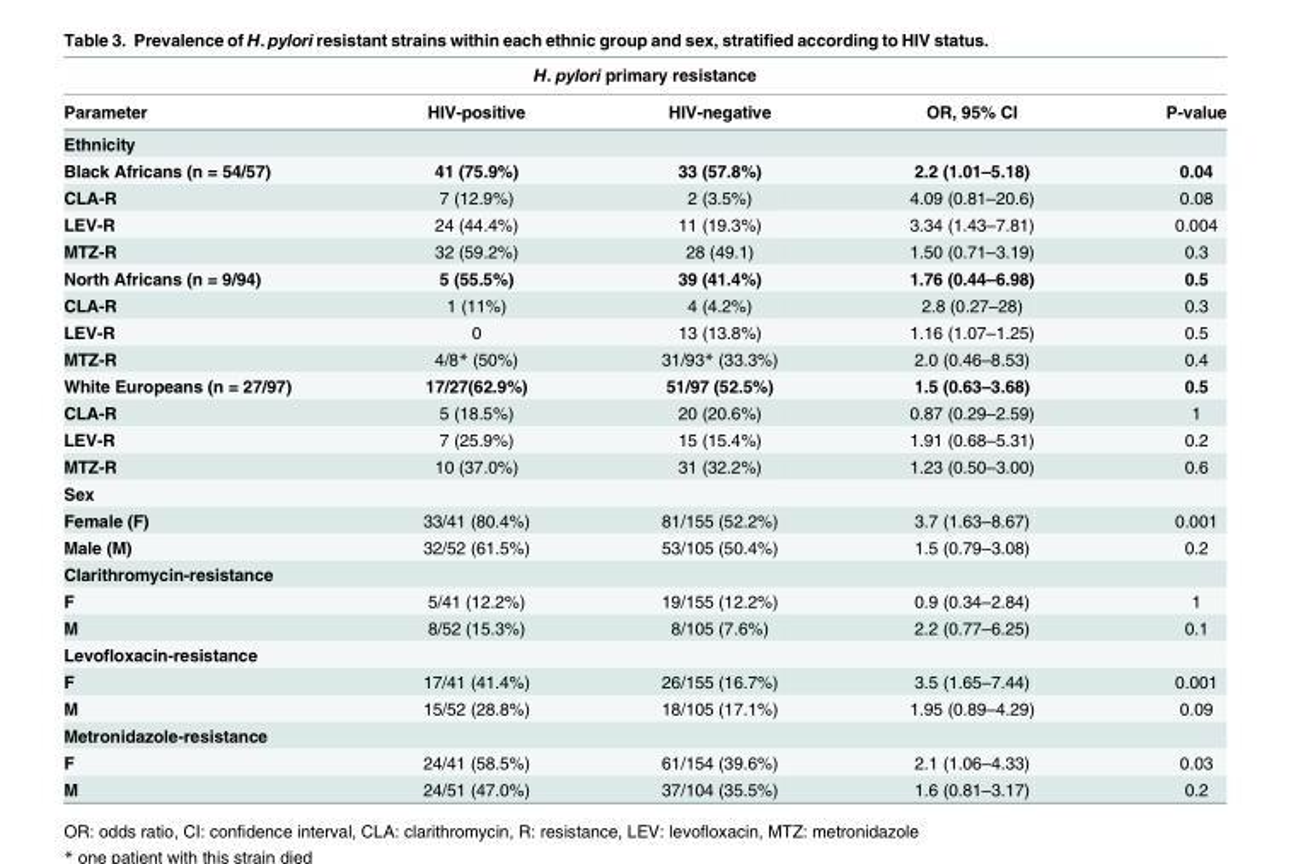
<table><thead><tr><td colspan="5">H. pylori primary resistance</td></tr><tr><td>Parameter</td><td>HIV-positive</td><td>HIV-negative</td><td>OR, 95% CI</td><td>P-value</td></tr></thead><tbody><tr><td colspan="5">Ethnicity</td></tr><tr><td>Black Africans (n = 54/57)</td><td>41 (75.9%)</td><td>33 (57.8%)</td><td>2.2 (1.01–5.18)</td><td>0.04</td></tr><tr><td>CLA-R</td><td>7 (12.9%)</td><td>2 (3.5%)</td><td>4.09 (0.81–20.6)</td><td>0.08</td></tr><tr><td>LEV-R</td><td>24 (44.4%)</td><td>11 (19.3%)</td><td>3.34 (1.43–7.81)</td><td>0.004</td></tr><tr><td>MTZ-R</td><td>32 (59.2%)</td><td>28 (49.1)</td><td>1.50 (0.71–3.19)</td><td>0.3</td></tr><tr><td>North Africans (n = 9/94)</td><td>5 (55.5%)</td><td>39 (41.4%)</td><td>1.76 (0.44–6.98)</td><td>0.5</td></tr><tr><td>CLA-R</td><td>1 (11%)</td><td>4 (4.2%)</td><td>2.8 (0.27–28)</td><td>0.3</td></tr><tr><td>LEV-R</td><td>0</td><td>13 (13.8%)</td><td>1.16 (1.07–1.25)</td><td>0.5</td></tr><tr><td>MTZ-R</td><td>4/8* (50%)</td><td>31/93* (33.3%)</td><td>2.0 (0.46–8.53)</td><td>0.4</td></tr><tr><td>White Europeans (n = 27/97)</td><td>17/27(62.9%)</td><td>51/97 (52.5%)</td><td>1.5 (0.63–3.68)</td><td>0.5</td></tr><tr><td>CLA-R</td><td>5 (18.5%)</td><td>20 (20.6%)</td><td>0.87 (0.29–2.59)</td><td>1</td></tr><tr><td>LEV-R</td><td>7 (25.9%)</td><td>15 (15.4%)</td><td>1.91 (0.68–5.31)</td><td>0.2</td></tr><tr><td>MTZ-R</td><td>10 (37.0%)</td><td>31 (32.2%)</td><td>1.23 (0.50–3.00)</td><td>0.6</td></tr><tr><td colspan="5">Sex</td></tr><tr><td>Female (F)</td><td>33/41 (80.4%)</td><td>81/155 (52.2%)</td><td>3.7 (1.63–8.67)</td><td>0.001</td></tr><tr><td>Male (M)</td><td>32/52 (61.5%)</td><td>53/105 (50.4%)</td><td>1.5 (0.79–3.08)</td><td>0.2</td></tr><tr><td colspan="5">Clarithromycin-resistance</td></tr><tr><td>F</td><td>5/41 (12.2%)</td><td>19/155 (12.2%)</td><td>0.9 (0.34–2.84)</td><td>1</td></tr><tr><td>M</td><td>8/52 (15.3%)</td><td>8/105 (7.6%)</td><td>2.2 (0.77–6.25)</td><td>0.1</td></tr><tr><td colspan="5">Levofloxacin-resistance</td></tr><tr><td>F</td><td>17/41 (41.4%)</td><td>26/155 (16.7%)</td><td>3.5 (1.65–7.44)</td><td>0.001</td></tr><tr><td>M</td><td>15/52 (28.8%)</td><td>18/105 (17.1%)</td><td>1.95 (0.89–4.29)</td><td>0.09</td></tr><tr><td colspan="5">Metronidazole-resistance</td></tr><tr><td>F</td><td>24/41 (58.5%)</td><td>61/154 (39.6%)</td><td>2.1 (1.06–4.33)</td><td>0.03</td></tr><tr><td>M</td><td>24/51 (47.0%)</td><td>37/104 (35.5%)</td><td>1.6 (0.81–3.17)</td><td>0.2</td></tr></tbody></table>